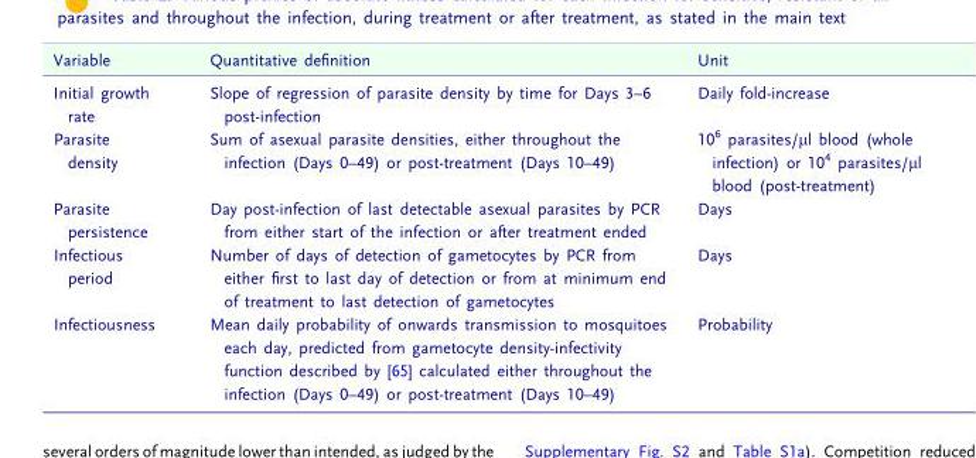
<table><thead><tr><td>Variable</td><td>Quantitative definition</td><td>Unit</td></tr></thead><tbody><tr><td>Initial growth rate</td><td>Slope of regression of parasite density by time for Days 3–6 post-infection</td><td>Daily fold-increase</td></tr><tr><td>Parasite density</td><td>Sum of asexual parasite densities, either throughout the infection (Days 0–49) or post-treatment (Days 10–49)</td><td>10<sup>6</sup> parasites/µl blood (whole infection) or 10<sup>4</sup> parasites/µl blood (post-treatment)</td></tr><tr><td>Parasite persistence</td><td>Day post-infection of last detectable asexual parasites by PCR from either start of the infection or after treatment ended</td><td>Days</td></tr><tr><td>Infectious period</td><td>Number of days of detection of gametocytes by PCR from either first to last day of detection or from at minimum end of treatment to last detection of gametocytes</td><td>Days</td></tr><tr><td>Infectiousness</td><td>Mean daily probability of onwards transmission to mosquitoes each day, predicted from gametocyte density-infectivity function described by [65] calculated either throughout the infection (Days 0–49) or post-treatment (Days 10–49)</td><td>Probability</td></tr></tbody></table>